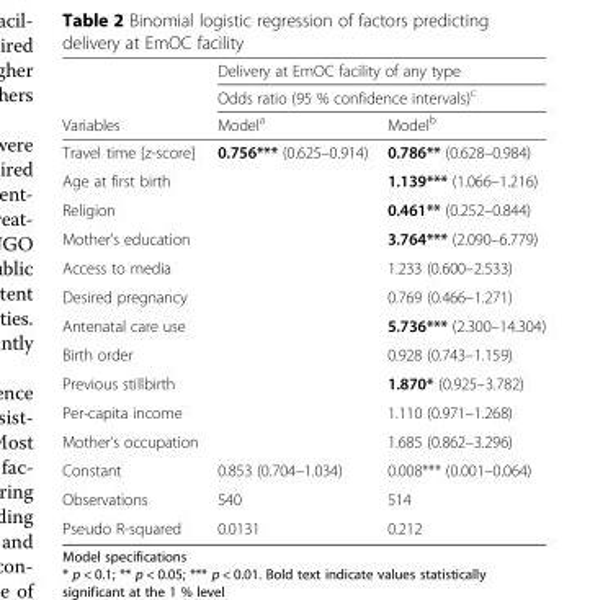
<table><thead><tr><td rowspan="3">Variables</td><td rowspan="2" colspan="2">Delivery at EmOC facility of any type Odds ratio (95 % confidence intervals)<sup>c</sup></td></tr><tr></tr><tr><td>Model<sup>a</sup></td><td>Model<sup>b</sup></td></tr></thead><tbody><tr><td>Travel time [z-score]</td><td>0.756*** (0.625–0.914)</td><td>0.786** (0.628–0.984)</td></tr><tr><td>Age at first birth</td><td></td><td>1.139*** (1.066–1.216)</td></tr><tr><td>Religion</td><td></td><td>0.461** (0.252–0.844)</td></tr><tr><td>Mother’s education</td><td></td><td>3.764*** (2.090–6.779)</td></tr><tr><td>Access to media</td><td></td><td>1.233 (0.600–2.533)</td></tr><tr><td>Desired pregnancy</td><td></td><td>0.769 (0.466–1.271)</td></tr><tr><td>Antenatal care use</td><td></td><td>5.736*** (2.300–14.304)</td></tr><tr><td>Birth order</td><td></td><td>0.928 (0.743–1.159)</td></tr><tr><td>Previous stillbirth</td><td></td><td>1.870* (0.925–3.782)</td></tr><tr><td>Per-capita income</td><td></td><td>1.110 (0.971–1.268)</td></tr><tr><td>Mother’s occupation</td><td></td><td>1.685 (0.862–3.296)</td></tr><tr><td>Constant</td><td>0.853 (0.704–1.034)</td><td>0.008*** (0.001–0.064)</td></tr><tr><td>Observations</td><td>540</td><td>514</td></tr><tr><td>Pseudo R-squared</td><td>0.0131</td><td>0.212</td></tr></tbody></table>